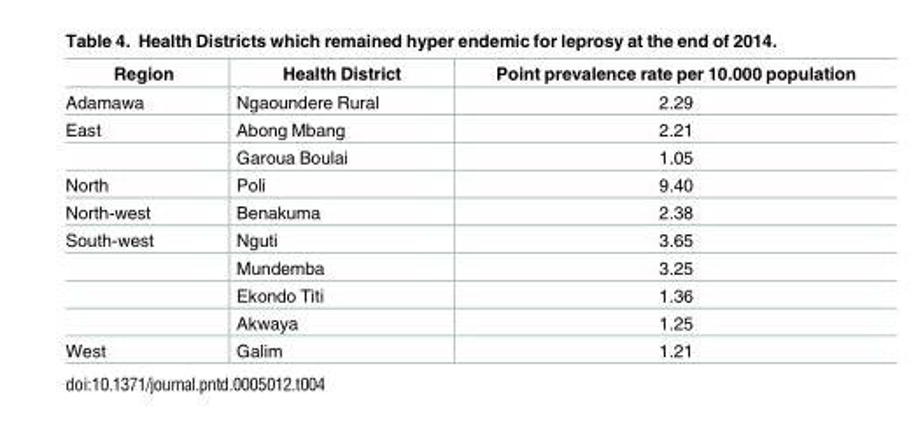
<table><thead><tr><td>Region</td><td>Health District</td><td>Point prevalence rate per 10.000 population</td></tr></thead><tbody><tr><td>Adamawa</td><td>Ngaoundere Rural</td><td>2.29</td></tr><tr><td rowspan="2">East</td><td>Abong Mbang</td><td>2.21</td></tr><tr><td>Garoua Boulai</td><td>1.05</td></tr><tr><td>North</td><td>Poli</td><td>9.40</td></tr><tr><td>North-west</td><td>Benakuma</td><td>2.38</td></tr><tr><td rowspan="4">South-west</td><td>Nguti</td><td>3.65</td></tr><tr><td>Mundemba</td><td>3.25</td></tr><tr><td>Ekondo Titi</td><td>1.36</td></tr><tr><td>Akwaya</td><td>1.25</td></tr><tr><td>West</td><td>Galim</td><td>1.21</td></tr></tbody></table>